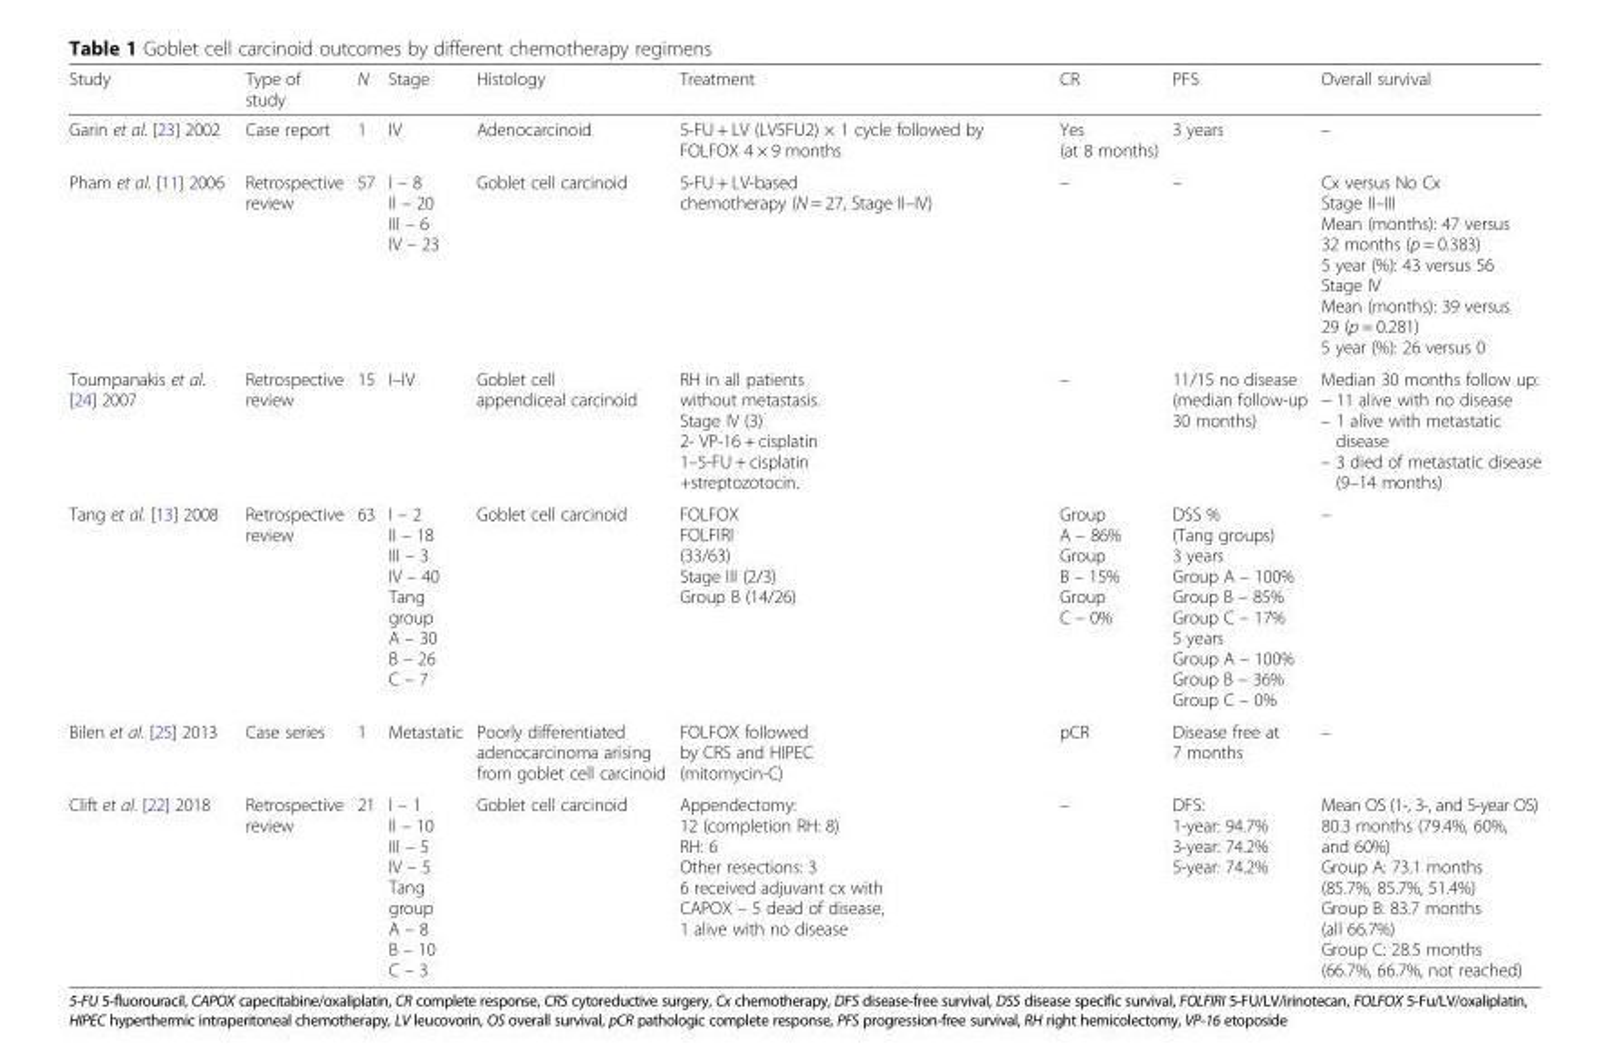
<table><thead><tr><td>Study</td><td>Type of study</td><td>N</td><td>Stage</td><td>Histology</td><td>Treatment</td><td>CR</td><td>PFS</td><td>Overall survival</td></tr></thead><tbody><tr><td>Garin et al. [23] 2002</td><td>Case report</td><td>1</td><td>IV</td><td>Adenocarcinoid</td><td>5-FU + LV (LV5FU2) × 1 cycle followed by FOLFOX 4 × 9 months</td><td>Yes (at 8 months)</td><td>3 years</td><td>–</td></tr><tr><td>Pham et al. [11] 2006</td><td>Retrospective review</td><td>57</td><td>I – 8 II – 20 III – 6 IV – 23</td><td>Goblet cell carcinoid</td><td>5-FU + LV-based chemotherapy (N = 27, Stage II–IV)</td><td>–</td><td>–</td><td>Cx versus No Cx Stage II–III Mean (months): 47 versus 32 months (p = 0.383) 5 year (%): 43 versus 56 Stage IV Mean (months): 39 versus 29 (p = 0.281) 5 year (%): 26 versus 0</td></tr><tr><td>Toumpanakis et al. [24] 2007</td><td>Retrospective review</td><td>15</td><td>I–IV</td><td>Goblet cell appendiceal carcinoid</td><td>RH in all patients without metastasis. Stage IV (3) 2- VP-16 + cisplatin 1–5-FU + cisplatin +streptozotocin.</td><td>–</td><td>11/15 no disease (median follow-up 30 months)</td><td>Median 30 months follow up: − 11 alive with no disease – 1 alive with metastatic disease – 3 died of metastatic disease (9–14 months)</td></tr><tr><td>Tang et al. [13] 2008</td><td>Retrospective review</td><td>63</td><td>I – 2 II – 18 III – 3 IV – 40 Tang group A – 30 B – 26 C – 7</td><td>Goblet cell carcinoid</td><td>FOLFOX FOLFIRI (33/63) Stage III (2/3) Group B (14/26)</td><td>Group A – 86% Group B – 15% Group C – 0%</td><td>DSS % (Tang groups) 3 years Group A – 100% Group B – 85% Group C – 17% 5 years Group A – 100% Group B – 36% Group C – 0%</td><td>–</td></tr><tr><td>Bilen et al. [25] 2013</td><td>Case series</td><td>1</td><td>Metastatic</td><td>Poorly differentiated adenocarcinoma arising from goblet cell carcinoid</td><td>FOLFOX followed by CRS and HIPEC (mitomycin-C)</td><td>pCR</td><td>Disease free at 7 months</td><td>–</td></tr><tr><td>Clift et al. [22] 2018</td><td>Retrospective review</td><td>21</td><td>I – 1 II – 10 III – 5 IV – 5 Tang group A – 8 B – 10 C – 3</td><td>Goblet cell carcinoid</td><td>Appendectomy: 12 (completion RH: 8) RH: 6 Other resections: 3 6 received adjuvant cx with CAPOX – 5 dead of disease, 1 alive with no disease</td><td>–</td><td>DFS: 1-year: 94.7% 3-year: 74.2% 5-year: 74.2%</td><td>Mean OS (1-, 3-, and 5-year OS) 80.3 months (79.4%, 60%, and 60%) Group A: 73.1 months (85.7%, 85.7%, 51.4%) Group B: 83.7 months (all 66.7%) Group C: 28.5 months (66.7%, 66.7%, not reached)</td></tr></tbody></table>